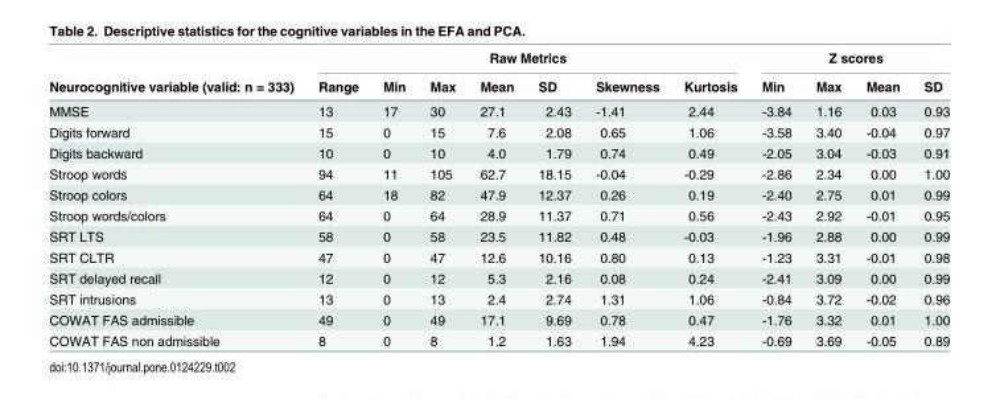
<table><thead><tr><td rowspan="2">Neurocognitive variable (valid: n = 333)</td><td colspan="7">Raw Metrics</td><td colspan="4">Z scores</td></tr><tr><td>Range</td><td>Min</td><td>Max</td><td>Mean</td><td>SD</td><td>Skewness</td><td>Kurtosis</td><td>Min</td><td>Max</td><td>Mean</td><td>SD</td></tr></thead><tbody><tr><td>MMSE</td><td>13</td><td>17</td><td>30</td><td>27.1</td><td>2.43</td><td>-1.41</td><td>2.44</td><td>-3.84</td><td>1.16</td><td>0.03</td><td>0.93</td></tr><tr><td>Digits forward</td><td>15</td><td>0</td><td>15</td><td>7.6</td><td>2.08</td><td>0.65</td><td>1.06</td><td>-3.58</td><td>3.40</td><td>-0.04</td><td>0.97</td></tr><tr><td>Digits backward</td><td>10</td><td>0</td><td>10</td><td>4.0</td><td>1.79</td><td>0.74</td><td>0.49</td><td>-2.05</td><td>3.04</td><td>-0.03</td><td>0.91</td></tr><tr><td>Stroop words</td><td>94</td><td>11</td><td>105</td><td>62.7</td><td>18.15</td><td>-0.04</td><td>-0.29</td><td>-2.86</td><td>2.34</td><td>0.00</td><td>1.00</td></tr><tr><td>Stroop colors</td><td>64</td><td>18</td><td>82</td><td>47.9</td><td>12.37</td><td>0.26</td><td>0.19</td><td>-2.40</td><td>2.75</td><td>0.01</td><td>0.99</td></tr><tr><td>Stroop words/colors</td><td>64</td><td>0</td><td>64</td><td>28.9</td><td>11.37</td><td>0.71</td><td>0.56</td><td>-2.43</td><td>2.92</td><td>-0.01</td><td>0.95</td></tr><tr><td>SRT LTS</td><td>58</td><td>0</td><td>58</td><td>23.5</td><td>11.82</td><td>0.48</td><td>-0.03</td><td>-1.96</td><td>2.88</td><td>0.00</td><td>0.99</td></tr><tr><td>SRT CLTR</td><td>47</td><td>0</td><td>47</td><td>12.6</td><td>10.16</td><td>0.80</td><td>0.13</td><td>-1.23</td><td>3.31</td><td>-0.01</td><td>0.98</td></tr><tr><td>SRT delayed recall</td><td>12</td><td>0</td><td>12</td><td>5.3</td><td>2.16</td><td>0.08</td><td>0.24</td><td>-2.41</td><td>3.09</td><td>0.00</td><td>0.99</td></tr><tr><td>SRT intrusions</td><td>13</td><td>0</td><td>13</td><td>2.4</td><td>2.74</td><td>1.31</td><td>1.06</td><td>-0.84</td><td>3.72</td><td>-0.02</td><td>0.96</td></tr><tr><td>COWAT FAS admissible</td><td>49</td><td>0</td><td>49</td><td>17.1</td><td>9.69</td><td>0.78</td><td>0.47</td><td>-1.76</td><td>3.32</td><td>0.01</td><td>1.00</td></tr><tr><td>COWAT FAS non admissible</td><td>8</td><td>0</td><td>8</td><td>1.2</td><td>1.63</td><td>1.94</td><td>4.23</td><td>-0.69</td><td>3.69</td><td>-0.05</td><td>0.89</td></tr></tbody></table>